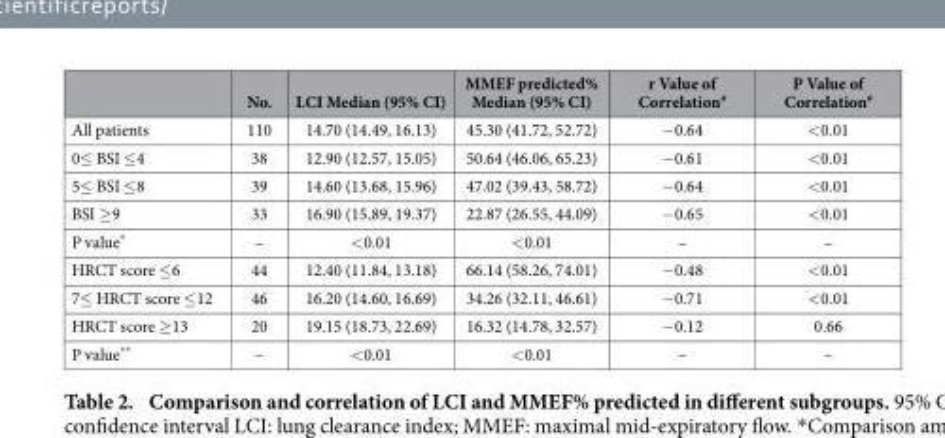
<table><thead><tr><td></td><td>No.</td><td>LCI Median (95% CI)</td><td>MMEF predicted% Median (95% CI)</td><td>r Value of Correlation#</td><td>P Value of Correlation#</td></tr></thead><tbody><tr><td>All patients</td><td>110</td><td>14.70 (14.49, 16.13)</td><td>45.30 (41.72, 52.72)</td><td>− 0.64</td><td>&lt; 0.01</td></tr><tr><td>0≤ BSI ≤ 4</td><td>38</td><td>12.90 (12.57, 15.05)</td><td>50.64 (46.06, 65.23)</td><td>− 0.61</td><td>&lt; 0.01</td></tr><tr><td>5≤ BSI ≤ 8</td><td>39</td><td>14.60 (13.68, 15.96)</td><td>47.02 (39.43, 58.72)</td><td>− 0.64</td><td>&lt; 0.01</td></tr><tr><td>BSI ≥ 9</td><td>33</td><td>16.90 (15.89, 19.37)</td><td>22.87 (26.55, 44.09)</td><td>− 0.65</td><td>&lt; 0.01</td></tr><tr><td>P value*</td><td>–</td><td>&lt; 0.01</td><td>&lt; 0.01</td><td>–</td><td>–</td></tr><tr><td>HRCT score ≤ 6</td><td>44</td><td>12.40 (11.84, 13.18)</td><td>66.14 (58.26, 74.01)</td><td>− 0.48</td><td>&lt; 0.01</td></tr><tr><td>7≤ HRCT score ≤ 12</td><td>46</td><td>16.20 (14.60, 16.69)</td><td>34.26 (32.11, 46.61)</td><td>− 0.71</td><td>&lt; 0.01</td></tr><tr><td>HRCT score ≥ 13</td><td>20</td><td>19.15 (18.73, 22.69)</td><td>16.32 (14.78, 32.57)</td><td>− 0.12</td><td>0.66</td></tr><tr><td>P value**</td><td>–</td><td>&lt; 0.01</td><td>&lt; 0.01</td><td>–</td><td>–</td></tr></tbody></table>